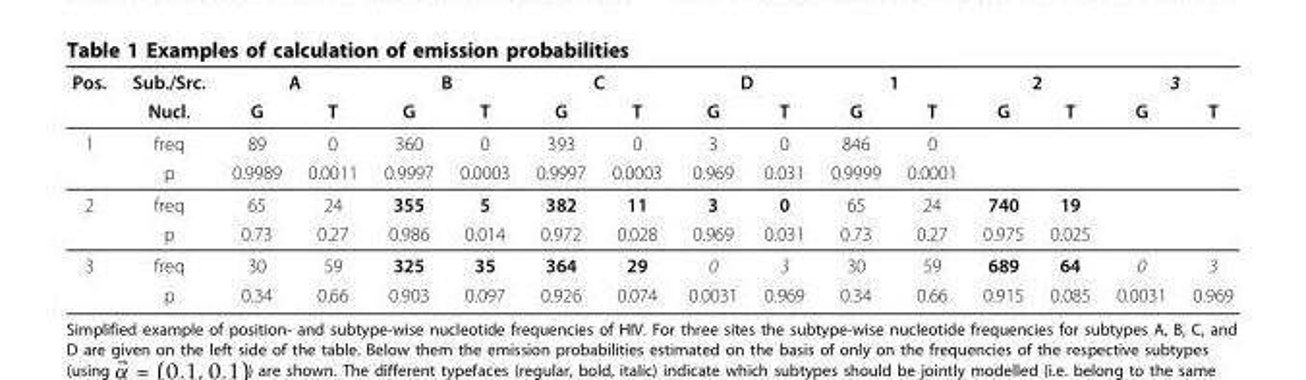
<table><thead><tr><td rowspan="2">Pos.</td><td rowspan="2">Sub./Src. Nucl.</td><td colspan="2">A</td><td colspan="2">B</td><td colspan="2">C</td><td colspan="2">D</td><td colspan="2">1</td><td colspan="2">2</td><td colspan="2">3</td></tr><tr><td>G</td><td>T</td><td>G</td><td>T</td><td>G</td><td>T</td><td>G</td><td>T</td><td>G</td><td>T</td><td>G</td><td>T</td><td>G</td><td>T</td></tr></thead><tbody><tr><td rowspan="2">1</td><td>freq</td><td>89</td><td>0</td><td>360</td><td>0</td><td>393</td><td>0</td><td>3</td><td>0</td><td>846</td><td>0</td><td></td><td></td><td></td><td></td></tr><tr><td>p</td><td>0.9989</td><td>0.0011</td><td>0.9997</td><td>0.0003</td><td>0.9997</td><td>0.0003</td><td>0.969</td><td>0.031</td><td>0.9999</td><td>0.0001</td><td></td><td></td><td></td><td></td></tr><tr><td rowspan="2">2</td><td>freq</td><td>65</td><td>24</td><td>355</td><td>5</td><td>382</td><td>11</td><td>3</td><td>0</td><td>65</td><td>24</td><td>740</td><td>19</td><td></td><td></td></tr><tr><td>p</td><td>0.73</td><td>0.27</td><td>0.986</td><td>0.014</td><td>0.972</td><td>0.028</td><td>0.969</td><td>0.031</td><td>0.73</td><td>0.27</td><td>0.975</td><td>0.025</td><td></td><td></td></tr><tr><td rowspan="2">3</td><td>freq</td><td>30</td><td>59</td><td>325</td><td>35</td><td>364</td><td>29</td><td>0</td><td>3</td><td>30</td><td>59</td><td>689</td><td>64</td><td>0</td><td>3</td></tr><tr><td>p</td><td>0.34</td><td>0.66</td><td>0.903</td><td>0.097</td><td>0.926</td><td>0.074</td><td>0.0031</td><td>0.969</td><td>0.34</td><td>0.66</td><td>0.915</td><td>0.085</td><td>0.0031</td><td>0.969</td></tr></tbody></table>